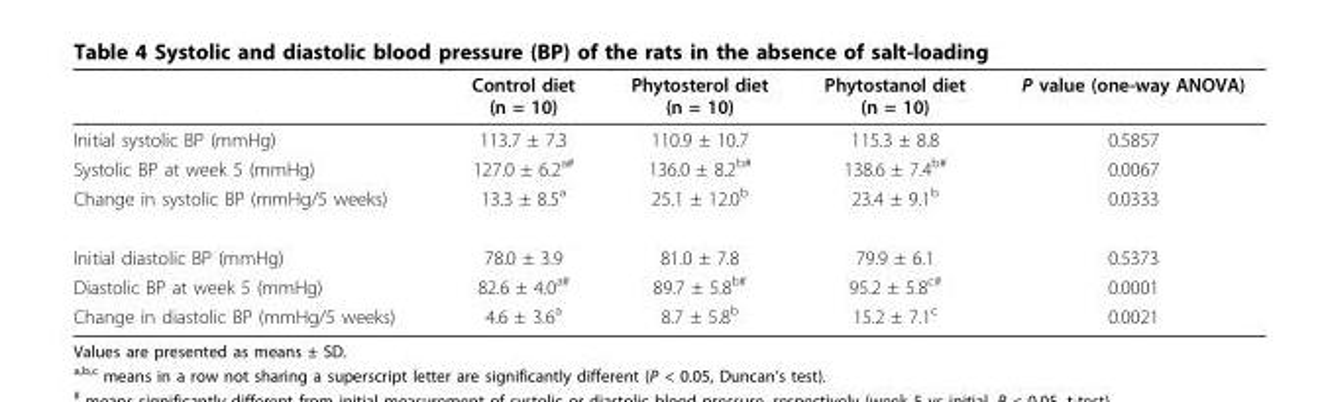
<table><thead><tr><td></td><td>Control diet (n = 10)</td><td>Phytosterol diet (n = 10)</td><td>Phytostanol diet (n = 10)</td><td>P value (one-way ANOVA)</td></tr></thead><tbody><tr><td>Initial systolic BP (mmHg)</td><td>113.7 ± 7.3</td><td>110.9 ± 10.7</td><td>115.3 ± 8.8</td><td>0.5857</td></tr><tr><td>Systolic BP at week 5 (mmHg)</td><td>127.0 ± 6.2<sup>a#</sup></td><td>136.0 ± 8.2<sup>b#</sup></td><td>138.6 ± 7.4<sup>b#</sup></td><td>0.0067</td></tr><tr><td>Change in systolic BP (mmHg/5 weeks)</td><td>13.3 ± 8.5<sup>a</sup></td><td>25.1 ± 12.0<sup>b</sup></td><td>23.4 ± 9.1<sup>b</sup></td><td>0.0333</td></tr><tr><td>Initial diastolic BP (mmHg)</td><td>78.0 ± 3.9</td><td>81.0 ± 7.8</td><td>79.9 ± 6.1</td><td>0.5373</td></tr><tr><td>Diastolic BP at week 5 (mmHg)</td><td>82.6 ± 4.0<sup>a#</sup></td><td>89.7 ± 5.8<sup>b#</sup></td><td>95.2 ± 5.8<sup>c#</sup></td><td>0.0001</td></tr><tr><td>Change in diastolic BP (mmHg/5 weeks)</td><td>4.6 ± 3.6<sup>a</sup></td><td>8.7 ± 5.8<sup>b</sup></td><td>15.2 ± 7.1<sup>c</sup></td><td>0.0021</td></tr></tbody></table>